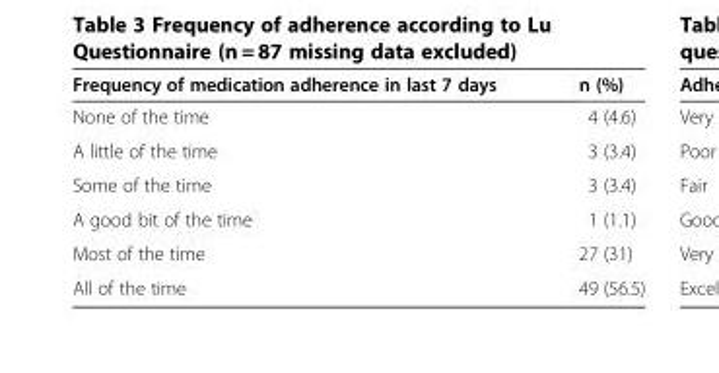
<table><thead><tr><td>Frequency of medication adherence in last 7 days</td><td>n (%)</td></tr></thead><tbody><tr><td>None of the time</td><td>4 (4.6)</td></tr><tr><td>A little of the time</td><td>3 (3.4)</td></tr><tr><td>Some of the time</td><td>3 (3.4)</td></tr><tr><td>A good bit of the time</td><td>1 (1.1)</td></tr><tr><td>Most of the time</td><td>27 (31)</td></tr><tr><td>All of the time</td><td>49 (56.5)</td></tr></tbody></table>